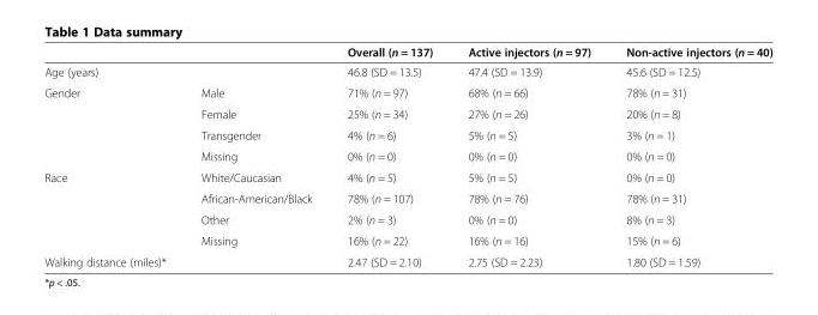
<table><thead><tr><td></td><td></td><td>Overall (n = 137)</td><td>Active injectors (n = 97)</td><td>Non-active injectors (n = 40)</td></tr></thead><tbody><tr><td>Age (years)</td><td></td><td>46.8 (SD = 13.5)</td><td>47.4 (SD = 13.9)</td><td>45.6 (SD = 12.5)</td></tr><tr><td rowspan="4">Gender</td><td>Male</td><td>71% (n = 97)</td><td>68% (n = 66)</td><td>78% (n = 31)</td></tr><tr><td>Female</td><td>25% (n = 34)</td><td>27% (n = 26)</td><td>20% (n = 8)</td></tr><tr><td>Transgender</td><td>4% (n = 6)</td><td>5% (n = 5)</td><td>3% (n = 1)</td></tr><tr><td>Missing</td><td>0% (n = 0)</td><td>0% (n = 0)</td><td>0% (n = 0)</td></tr><tr><td rowspan="4">Race</td><td>White/Caucasian</td><td>4% (n = 5)</td><td>5% (n = 5)</td><td>0% (n = 0)</td></tr><tr><td>African-American/Black</td><td>78% (n = 107)</td><td>78% (n = 76)</td><td>78% (n = 31)</td></tr><tr><td>Other</td><td>2% (n = 3)</td><td>0% (n = 0)</td><td>8% (n = 3)</td></tr><tr><td>Missing</td><td>16% (n = 22)</td><td>16% (n = 16)</td><td>15% (n = 6)</td></tr><tr><td>Walking distance (miles)*</td><td></td><td>2.47 (SD = 2.10)</td><td>2.75 (SD = 2.23)</td><td>1.80 (SD = 1.59)</td></tr></tbody></table>